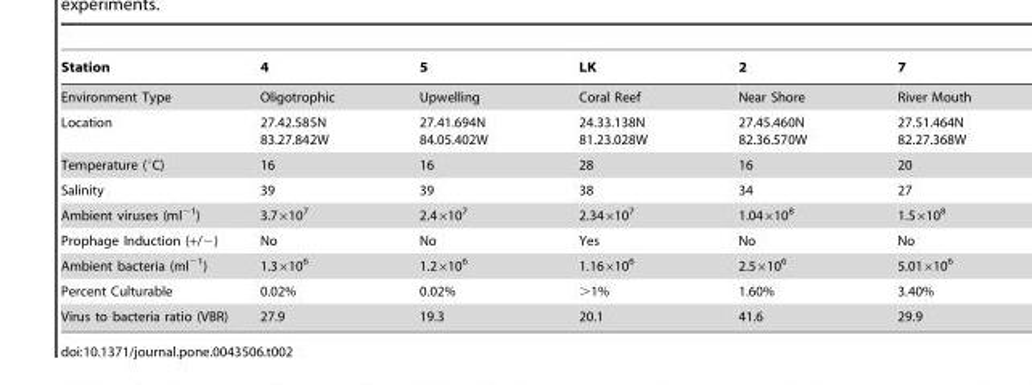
<table><thead><tr><td>Station</td><td>4</td><td>5</td><td>LK</td><td>2</td><td>7</td></tr></thead><tbody><tr><td>Environment Type</td><td>Oligotrophic</td><td>Upwelling</td><td>Coral Reef</td><td>Near Shore</td><td>River Mouth</td></tr><tr><td>Location</td><td>27.42.585N 83.27.842W</td><td>27.41.694N 84.05.402W</td><td>24.33.138N 81.23.028W</td><td>27.45.460N 82.36.570W</td><td>27.51.464N 82.27.368W</td></tr><tr><td>Temperature (°C)</td><td>16</td><td>16</td><td>28</td><td>16</td><td>20</td></tr><tr><td>Salinity</td><td>39</td><td>39</td><td>38</td><td>34</td><td>27</td></tr><tr><td>Ambient viruses (ml<sup>−1</sup>)</td><td>3.7×10<sup>7</sup></td><td>2.4×10<sup>7</sup></td><td>2.34×10<sup>7</sup></td><td>1.04×10<sup>8</sup></td><td>1.5×10<sup>8</sup></td></tr><tr><td>Prophage Induction (+/−)</td><td>No</td><td>No</td><td>Yes</td><td>No</td><td>No</td></tr><tr><td>Ambient bacteria (ml<sup>−1</sup>)</td><td>1.3×10<sup>6</sup></td><td>1.2×10<sup>6</sup></td><td>1.16×10<sup>6</sup></td><td>2.5×10<sup>6</sup></td><td>5.01×10<sup>6</sup></td></tr><tr><td>Percent Culturable</td><td>0.02%</td><td>0.02%</td><td>&gt;1%</td><td>1.60%</td><td>3.40%</td></tr><tr><td>Virus to bacteria ratio (VBR)</td><td>27.9</td><td>19.3</td><td>20.1</td><td>41.6</td><td>29.9</td></tr></tbody></table>